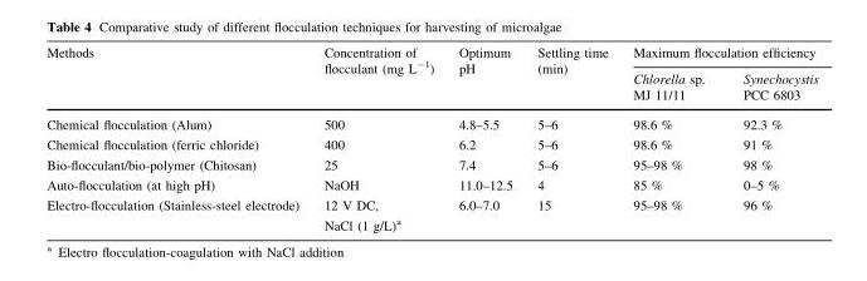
<table><thead><tr><td rowspan="2">Methods</td><td rowspan="2">Concentration of flocculant (mg L<sup>-1</sup>)</td><td rowspan="2">Optimum pH</td><td rowspan="2">Settling time (min)</td><td colspan="2">Maximum flocculation efficiency</td></tr><tr><td>Chlorella sp. MJ 11/11</td><td>Synechocystis PCC 6803</td></tr></thead><tbody><tr><td>Chemical flocculation (Alum)</td><td>500</td><td>4.8–5.5</td><td>5–6</td><td>98.6 %</td><td>92.3 %</td></tr><tr><td>Chemical flocculation (ferric chloride)</td><td>400</td><td>6.2</td><td>5–6</td><td>98.6 %</td><td>91 %</td></tr><tr><td>Bio-flocculant/bio-polymer (Chitosan)</td><td>25</td><td>7.4</td><td>5–6</td><td>95–98 %</td><td>98 %</td></tr><tr><td>Auto-flocculation (at high pH)</td><td>NaOH</td><td>11.0–12.5</td><td>4</td><td>85 %</td><td>0–5 %</td></tr><tr><td>Electro-flocculation (Stainless-steel electrode)</td><td>12 V DC, NaCl (1 g/L)<sup>a</sup></td><td>6.0–7.0</td><td>15</td><td>95–98 %</td><td>96 %</td></tr></tbody></table>